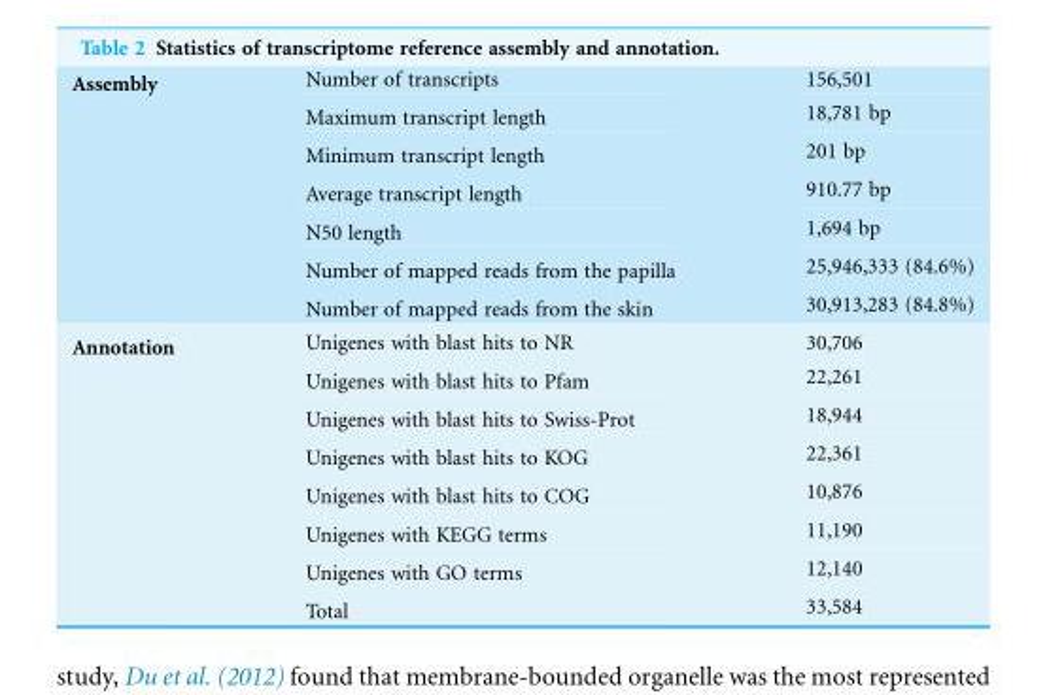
<table><tbody><tr><td rowspan="7">Assembly</td><td>Number of transcripts</td><td>156,501</td></tr><tr><td>Maximum transcript length</td><td>18,781 bp</td></tr><tr><td>Minimum transcript length</td><td>201 bp</td></tr><tr><td>Average transcript length</td><td>910.77 bp</td></tr><tr><td>N50 length</td><td>1,694 bp</td></tr><tr><td>Number of mapped reads from the papilla</td><td>25,946,333 (84.6%)</td></tr><tr><td>Number of mapped reads from the skin</td><td>30,913,283 (84.8%)</td></tr><tr><td rowspan="8">Annotation</td><td>Unigenes with blast hits to NR</td><td>30,706</td></tr><tr><td>Unigenes with blast hits to Pfam</td><td>22,261</td></tr><tr><td>Unigenes with blast hits to Swiss-Prot</td><td>18,944</td></tr><tr><td>Unigenes with blast hits to KOG</td><td>22,361</td></tr><tr><td>Unigenes with blast hits to COG</td><td>10,876</td></tr><tr><td>Unigenes with KEGG terms</td><td>11,190</td></tr><tr><td>Unigenes with GO terms</td><td>12,140</td></tr><tr><td>Total</td><td>33,584</td></tr></tbody></table>